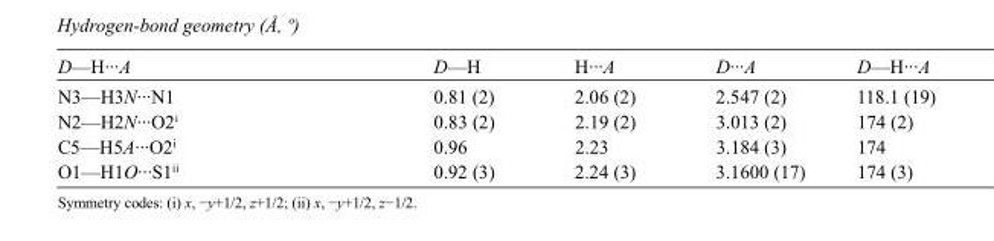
<table><tbody><tr><td>D—H···A</td><td>D—H</td><td>H···A</td><td>D···A</td><td>D—H···A</td></tr><tr><td>N3—H3N···N1</td><td>0.81 (2)</td><td>2.06 (2)</td><td>2.547 (2)</td><td>118.1 (19)</td></tr><tr><td>N2—H2N···O2<sup>i</sup></td><td>0.83 (2)</td><td>2.19 (2)</td><td>3.013 (2)</td><td>174 (2)</td></tr><tr><td>C5—H5A···O2<sup>i</sup></td><td>0.96</td><td>2.23</td><td>3.184 (3)</td><td>174</td></tr><tr><td>O1—H1O···S1<sup>ii</sup></td><td>0.92 (3)</td><td>2.24 (3)</td><td>3.1600 (17)</td><td>174 (3)</td></tr></tbody></table>